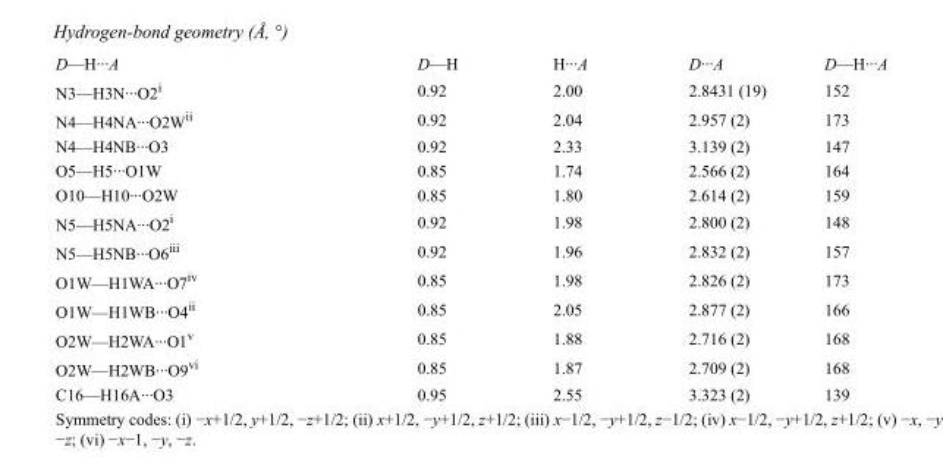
<table><tbody><tr><td>D—H···A</td><td>D—H</td><td>H···A</td><td>D···A</td><td>D—H···A</td></tr><tr><td>N3—H3N···O2<sup>i</sup></td><td>0.92</td><td>2.00</td><td>2.8431 (19)</td><td>152</td></tr><tr><td>N4—H4NA···O2W<sup>ii</sup></td><td>0.92</td><td>2.04</td><td>2.957 (2)</td><td>173</td></tr><tr><td>N4—H4NB···O3</td><td>0.92</td><td>2.33</td><td>3.139 (2)</td><td>147</td></tr><tr><td>O5—H5···O1W</td><td>0.85</td><td>1.74</td><td>2.566 (2)</td><td>164</td></tr><tr><td>O10—H10···O2W</td><td>0.85</td><td>1.80</td><td>2.614 (2)</td><td>159</td></tr><tr><td>N5—H5NA···O2<sup>i</sup></td><td>0.92</td><td>1.98</td><td>2.800 (2)</td><td>148</td></tr><tr><td>N5—H5NB···O6<sup>iii</sup></td><td>0.92</td><td>1.96</td><td>2.832 (2)</td><td>157</td></tr><tr><td>O1W—H1WA···O7<sup>iv</sup></td><td>0.85</td><td>1.98</td><td>2.826 (2)</td><td>173</td></tr><tr><td>O1W—H1WB···O4<sup>ii</sup></td><td>0.85</td><td>2.05</td><td>2.877 (2)</td><td>166</td></tr><tr><td>O2W—H2WA···O1<sup>v</sup></td><td>0.85</td><td>1.88</td><td>2.716 (2)</td><td>168</td></tr><tr><td>O2W—H2WB···O9<sup>vi</sup></td><td>0.85</td><td>1.87</td><td>2.709 (2)</td><td>168</td></tr><tr><td>C16—H16A···O3</td><td>0.95</td><td>2.55</td><td>3.323 (2)</td><td>139</td></tr></tbody></table>